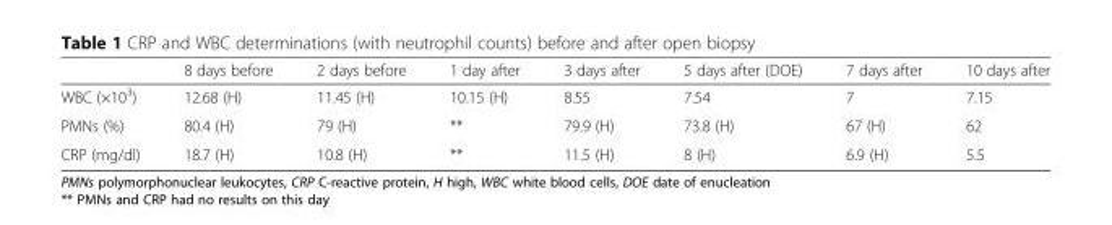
<table><thead><tr><td></td><td>8 days before</td><td>2 days before</td><td>1 day after</td><td>3 days after</td><td>5 days after (DOE)</td><td>7 days after</td><td>10 days after</td></tr></thead><tbody><tr><td>WBC (×10<sup>3</sup>)</td><td>12.68 (H)</td><td>11.45 (H)</td><td>10.15 (H)</td><td>8.55</td><td>7.54</td><td>7</td><td>7.15</td></tr><tr><td>PMNs (%)</td><td>80.4 (H)</td><td>79 (H)</td><td>**</td><td>79.9 (H)</td><td>73.8 (H)</td><td>67 (H)</td><td>62</td></tr><tr><td>CRP (mg/dl)</td><td>18.7 (H)</td><td>10.8 (H)</td><td>**</td><td>11.5 (H)</td><td>8 (H)</td><td>6.9 (H)</td><td>5.5</td></tr></tbody></table>